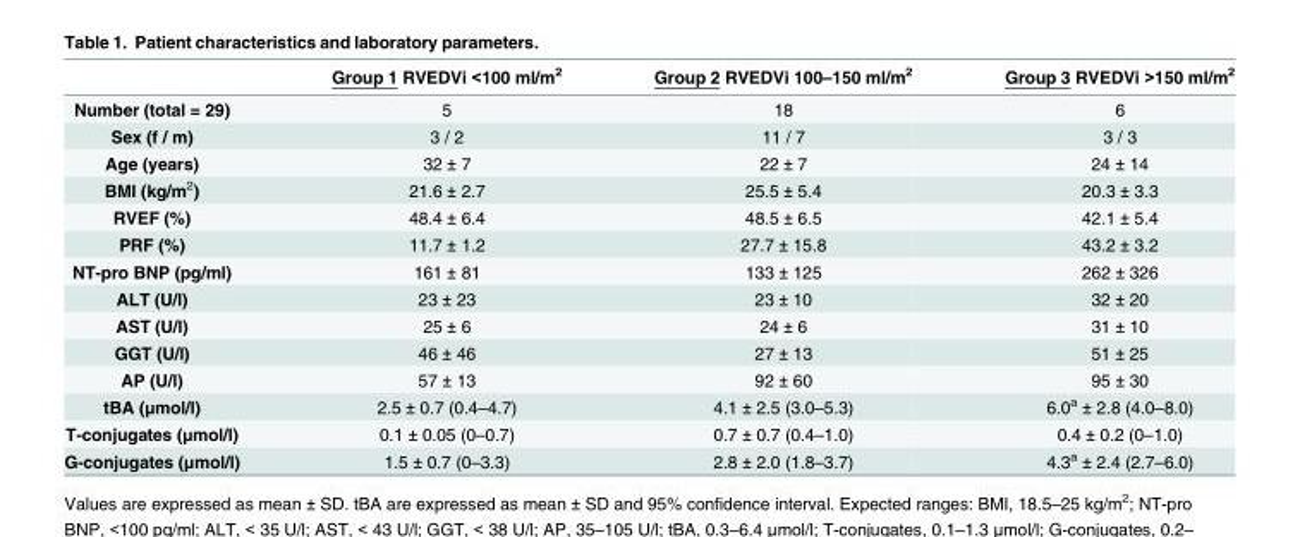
<table><thead><tr><td></td><td>Group 1 RVEDVi &lt;100 ml/m<sup>2</sup></td><td>Group 2 RVEDVi 100–150 ml/m<sup>2</sup></td><td>Group 3 RVEDVi &gt;150 ml/m<sup>2</sup></td></tr></thead><tbody><tr><td>Number (total = 29)</td><td>5</td><td>18</td><td>6</td></tr><tr><td>Sex (f / m)</td><td>3 / 2</td><td>11 / 7</td><td>3 / 3</td></tr><tr><td>Age (years)</td><td>32 ± 7</td><td>22 ± 7</td><td>24 ± 14</td></tr><tr><td>BMI (kg/m<sup>2</sup>)</td><td>21.6 ± 2.7</td><td>25.5 ± 5.4</td><td>20.3 ± 3.3</td></tr><tr><td>RVEF (%)</td><td>48.4 ± 6.4</td><td>48.5 ± 6.5</td><td>42.1 ± 5.4</td></tr><tr><td>PRF (%)</td><td>11.7 ± 1.2</td><td>27.7 ± 15.8</td><td>43.2 ± 3.2</td></tr><tr><td>NT-pro BNP (pg/ml)</td><td>161 ± 81</td><td>133 ± 125</td><td>262 ± 326</td></tr><tr><td>ALT (U/l)</td><td>23 ± 23</td><td>23 ± 10</td><td>32 ± 20</td></tr><tr><td>AST (U/l)</td><td>25 ± 6</td><td>24 ± 6</td><td>31 ± 10</td></tr><tr><td>GGT (U/l)</td><td>46 ± 46</td><td>27 ± 13</td><td>51 ± 25</td></tr><tr><td>AP (U/l)</td><td>57 ± 13</td><td>92 ± 60</td><td>95 ± 30</td></tr><tr><td>tBA (μmol/l)</td><td>2.5 ± 0.7 (0.4–4.7)</td><td>4.1 ± 2.5 (3.0–5.3)</td><td>6.0<sup>a</sup> ± 2.8 (4.0–8.0)</td></tr><tr><td>T-conjugates (μmol/l)</td><td>0.1 ± 0.05 (0–0.7)</td><td>0.7 ± 0.7 (0.4–1.0)</td><td>0.4 ± 0.2 (0–1.0)</td></tr><tr><td>G-conjugates (μmol/l)</td><td>1.5 ± 0.7 (0–3.3)</td><td>2.8 ± 2.0 (1.8–3.7)</td><td>4.3<sup>a</sup> ± 2.4 (2.7–6.0)</td></tr></tbody></table>